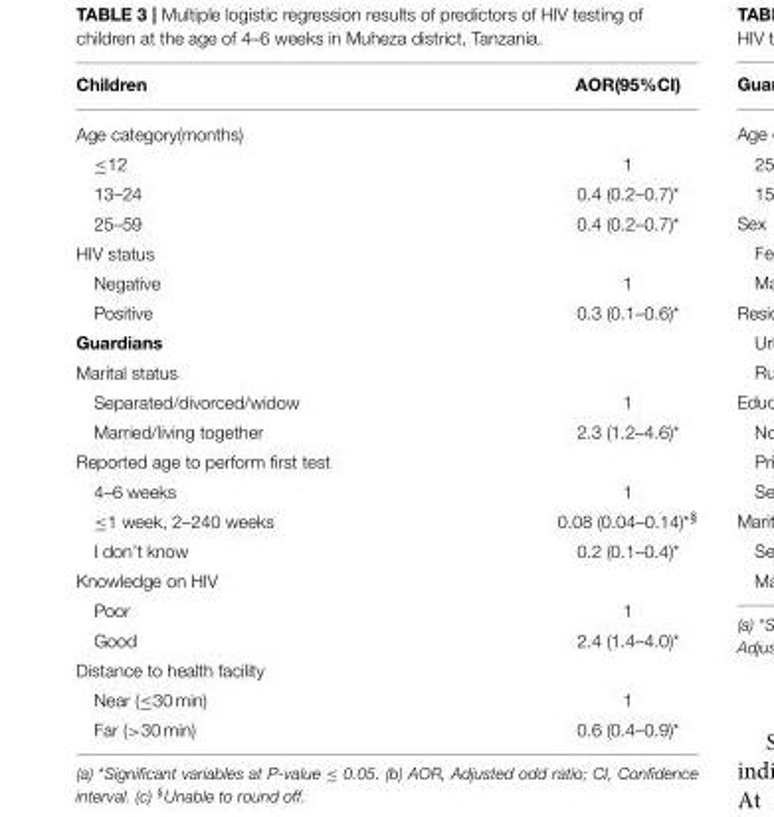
<table><thead><tr><td>Children</td><td>AOR(95%CI)</td></tr></thead><tbody><tr><td colspan="2">Age category(months)</td></tr><tr><td>≤12</td><td>1</td></tr><tr><td>13–24</td><td>0.4 (0.2–0.7)*</td></tr><tr><td>25–59</td><td>0.4 (0.2–0.7)*</td></tr><tr><td colspan="2">HIV status</td></tr><tr><td>Negative</td><td>1</td></tr><tr><td>Positive</td><td>0.3 (0.1–0.6)*</td></tr><tr><td colspan="2">Guardians</td></tr><tr><td colspan="2">Marital status</td></tr><tr><td>Separated/divorced/widow</td><td>1</td></tr><tr><td>Married/living together</td><td>2.3 (1.2–4.6)*</td></tr><tr><td colspan="2">Reported age to perform first test</td></tr><tr><td>4–6 weeks</td><td>1</td></tr><tr><td>≤1 week, 2–240 weeks</td><td>0.08 (0.04–0.14)<sup>*§</sup></td></tr><tr><td>I don’t know</td><td>0.2 (0.1–0.4)*</td></tr><tr><td colspan="2">Knowledge on HIV</td></tr><tr><td>Poor</td><td>1</td></tr><tr><td>Good</td><td>2.4 (1.4–4.0)*</td></tr><tr><td colspan="2">Distance to health facility</td></tr><tr><td>Near (≤30 min)</td><td>1</td></tr><tr><td>Far (&gt;30 min)</td><td>0.6 (0.4–0.9)*</td></tr></tbody></table>